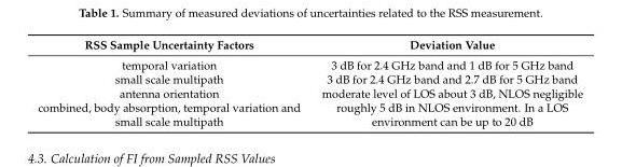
<table><thead><tr><td>RSS Sample Uncertainty Factors</td><td>Deviation Value</td></tr></thead><tbody><tr><td>temporal variation</td><td>3 dB for 2.4 GHz band and 1 dB for 5 GHz band</td></tr><tr><td>small scale multipath</td><td>3 dB for 2.4 GHz band and 2.7 dB for 5 GHz band</td></tr><tr><td>antenna orientation</td><td>moderate level of LOS about 3 dB, NLOS negligible</td></tr><tr><td>combined, body absorption, temporal variation and small scale multipath</td><td>roughly 5 dB in NLOS environment. In a LOS environment can be up to 20 dB</td></tr></tbody></table>